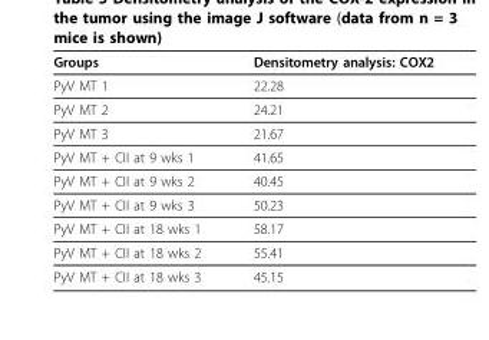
<table><thead><tr><td>Groups</td><td>Densitometry analysis: COX2</td></tr></thead><tbody><tr><td>PyV MT 1</td><td>22.28</td></tr><tr><td>PyV MT 2</td><td>24.21</td></tr><tr><td>PyV MT 3</td><td>21.67</td></tr><tr><td>PyV MT + CII at 9 wks 1</td><td>41.65</td></tr><tr><td>PyV MT + CII at 9 wks 2</td><td>40.45</td></tr><tr><td>PyV MT + CII at 9 wks 3</td><td>50.23</td></tr><tr><td>PyV MT + CII at 18 wks 1</td><td>58.17</td></tr><tr><td>PyV MT + CII at 18 wks 2</td><td>55.41</td></tr><tr><td>PyV MT + CII at 18 wks 3</td><td>45.15</td></tr></tbody></table>